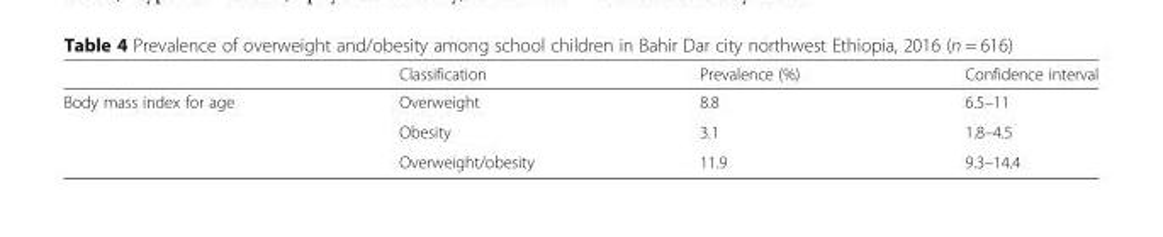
<table><thead><tr><td></td><td>Classification</td><td>Prevalence (%)</td><td>Confidence interval</td></tr></thead><tbody><tr><td rowspan="3">Body mass index for age</td><td>Overweight</td><td>8.8</td><td>6.5–11</td></tr><tr><td>Obesity</td><td>3.1</td><td>1.8–4.5</td></tr><tr><td>Overweight/obesity</td><td>11.9</td><td>9.3–14.4</td></tr></tbody></table>